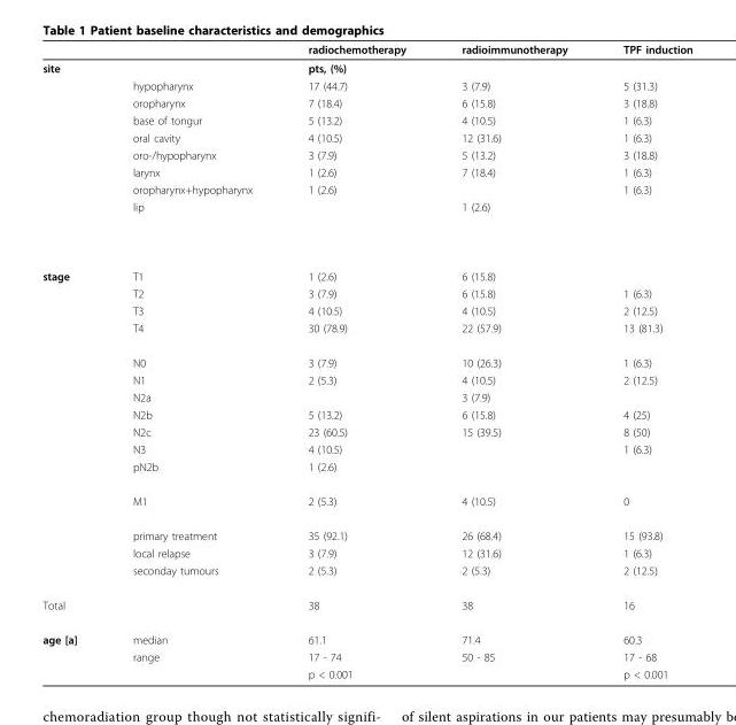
<table><thead><tr><td></td><td></td><td>radiochemotherapy</td><td>radioimmunotherapy</td><td>TPF induction</td></tr></thead><tbody><tr><td rowspan="9">site</td><td></td><td>pts, (%)</td><td></td><td></td></tr><tr><td>hypopharynx</td><td>17 (44.7)</td><td>3 (7.9)</td><td>5 (31.3)</td></tr><tr><td>oropharynx</td><td>7 (18.4)</td><td>6 (15.8)</td><td>3 (18.8)</td></tr><tr><td>base of tongur</td><td>5 (13.2)</td><td>4 (10.5)</td><td>1 (6.3)</td></tr><tr><td>oral cavity</td><td>4 (10.5)</td><td>12 (31.6)</td><td>1 (6.3)</td></tr><tr><td>oro-/hypopharynx</td><td>3 (7.9)</td><td>5 (13.2)</td><td>3 (18.8)</td></tr><tr><td>larynx</td><td>1 (2.6)</td><td>7 (18.4)</td><td>1 (6.3)</td></tr><tr><td>oropharynx+hypopharynx</td><td>1 (2.6)</td><td></td><td>1 (6.3)</td></tr><tr><td>lip</td><td></td><td>1 (2.6)</td><td></td></tr><tr><td rowspan="15">stage</td><td>T1</td><td>1 (2.6)</td><td>6 (15.8)</td><td></td></tr><tr><td>T2</td><td>3 (7.9)</td><td>6 (15.8)</td><td>1 (6.3)</td></tr><tr><td>T3</td><td>4 (10.5)</td><td>4 (10.5)</td><td>2 (12.5)</td></tr><tr><td>T4</td><td>30 (78.9)</td><td>22 (57.9)</td><td>13 (81.3)</td></tr><tr><td>N0</td><td>3 (7.9)</td><td>10 (26.3)</td><td>1 (6.3)</td></tr><tr><td>N1</td><td>2 (5.3)</td><td>4 (10.5)</td><td>2 (12.5)</td></tr><tr><td>N2a</td><td></td><td>3 (7.9)</td><td></td></tr><tr><td>N2b</td><td>5 (13.2)</td><td>6 (15.8)</td><td>4 (25)</td></tr><tr><td>N2c</td><td>23 (60.5)</td><td>15 (39.5)</td><td>8 (50)</td></tr><tr><td>N3</td><td>4 (10.5)</td><td></td><td>1 (6.3)</td></tr><tr><td>pN2b</td><td>1 (2.6)</td><td></td><td></td></tr><tr><td>M1</td><td>2 (5.3)</td><td>4 (10.5)</td><td>0</td></tr><tr><td>primary treatment</td><td>35 (92.1)</td><td>26 (68.4)</td><td>15 (93.8)</td></tr><tr><td>local relapse</td><td>3 (7.9)</td><td>12 (31.6)</td><td>1 (6.3)</td></tr><tr><td>seconday tumours</td><td>2 (5.3)</td><td>2 (5.3)</td><td>2 (12.5)</td></tr><tr><td>Total</td><td></td><td>38</td><td>38</td><td>16</td></tr><tr><td rowspan="3">age [a]</td><td>median</td><td>61.1</td><td>71.4</td><td>60.3</td></tr><tr><td>range</td><td>17 - 74</td><td>50 - 85</td><td>17 - 68</td></tr><tr><td></td><td>p &lt; 0.001</td><td></td><td>p &lt; 0.001</td></tr></tbody></table>